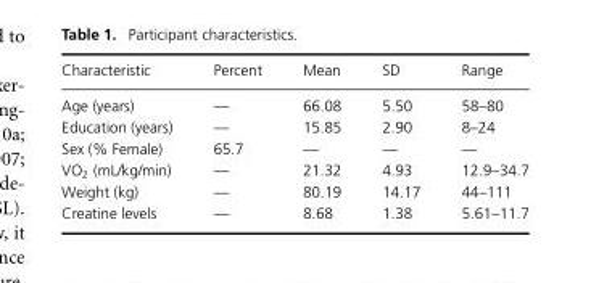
<table><thead><tr><td>Characteristic</td><td>Percent</td><td>Mean</td><td>SD</td><td>Range</td></tr></thead><tbody><tr><td>Age (years)</td><td>—</td><td>66.08</td><td>5.50</td><td>58–80</td></tr><tr><td>Education (years)</td><td>—</td><td>15.85</td><td>2.90</td><td>8–24</td></tr><tr><td>Sex (% Female)</td><td>65.7</td><td>—</td><td>—</td><td>—</td></tr><tr><td>VO<sub>2</sub> (mL/kg/min)</td><td>—</td><td>21.32</td><td>4.93</td><td>12.9–34.7</td></tr><tr><td>Weight (kg)</td><td>—</td><td>80.19</td><td>14.17</td><td>44–111</td></tr><tr><td>Creatine levels</td><td>—</td><td>8.68</td><td>1.38</td><td>5.61–11.7</td></tr></tbody></table>